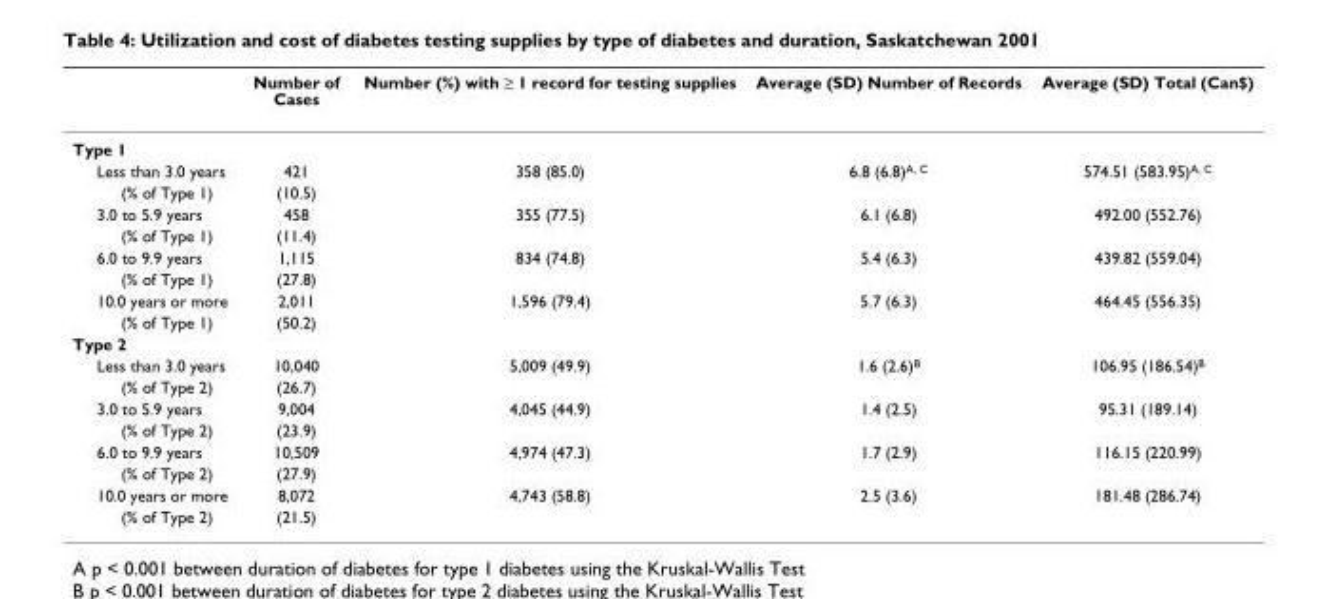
<table><thead><tr><td></td><td>Number of Cases</td><td>Number (%) with ≥ 1 record for testing supplies</td><td>Average (SD) Number of Records</td><td>Average (SD) Total (Can$)</td></tr></thead><tbody><tr><td colspan="5">Type 1</td></tr><tr><td>Less than 3.0 years</td><td>421</td><td>358 (85.0)</td><td>6.8 (6.8)A, C</td><td>574.51 (583.95)A, C</td></tr><tr><td>(% of Type 1)</td><td>(10.5)</td><td></td><td></td><td></td></tr><tr><td>3.0 to 5.9 years</td><td>458</td><td>355 (77.5)</td><td>6.1 (6.8)</td><td>492.00 (552.76)</td></tr><tr><td>(% of Type 1)</td><td>(11.4)</td><td></td><td></td><td></td></tr><tr><td>6.0 to 9.9 years</td><td>1,115</td><td>834 (74.8)</td><td>5.4 (6.3)</td><td>439.82 (559.04)</td></tr><tr><td>(% of Type 1)</td><td>(27.8)</td><td></td><td></td><td></td></tr><tr><td>10.0 years or more</td><td>2,011</td><td>1,596 (79.4)</td><td>5.7 (6.3)</td><td>464.45 (556.35)</td></tr><tr><td>(% of Type 1)</td><td>(50.2)</td><td></td><td></td><td></td></tr><tr><td colspan="5">Type 2</td></tr><tr><td>Less than 3.0 years</td><td>10,040</td><td>5,009 (49.9)</td><td>1.6 (2.6)B</td><td>106.95 (186.54)B</td></tr><tr><td>(% of Type 2)</td><td>(26.7)</td><td></td><td></td><td></td></tr><tr><td>3.0 to 5.9 years</td><td>9,004</td><td>4,045 (44.9)</td><td>1.4 (2.5)</td><td>95.31 (189.14)</td></tr><tr><td>(% of Type 2)</td><td>(23.9)</td><td></td><td></td><td></td></tr><tr><td>6.0 to 9.9 years</td><td>10,509</td><td>4,974 (47.3)</td><td>1.7 (2.9)</td><td>116.15 (220.99)</td></tr><tr><td>(% of Type 2)</td><td>(27.9)</td><td></td><td></td><td></td></tr><tr><td>10.0 years or more</td><td>8,072</td><td>4,743 (58.8)</td><td>2.5 (3.6)</td><td>181.48 (286.74)</td></tr><tr><td>(% of Type 2)</td><td>(21.5)</td><td></td><td></td><td></td></tr></tbody></table>